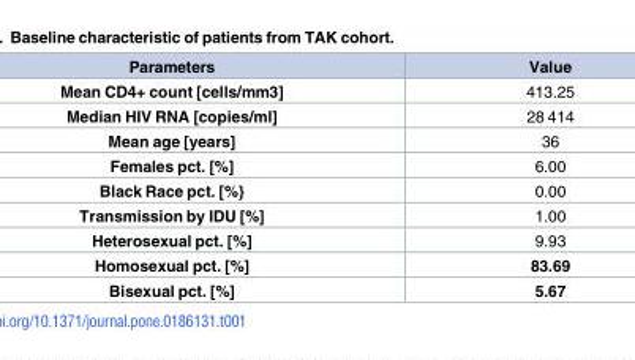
<table><thead><tr><td>Parameters</td><td>Value</td></tr></thead><tbody><tr><td>Mean CD4+ count [cells/mm3]</td><td>413.25</td></tr><tr><td>Median HIV RNA [copies/ml]</td><td>28 414</td></tr><tr><td>Mean age [years]</td><td>36</td></tr><tr><td>Females pct. [%]</td><td>6.00</td></tr><tr><td>Black Race pct. [%}</td><td>0.00</td></tr><tr><td>Transmission by IDU [%]</td><td>1.00</td></tr><tr><td>Heterosexual pct. [%]</td><td>9.93</td></tr><tr><td>Homosexual pct. [%]</td><td>83.69</td></tr><tr><td>Bisexual pct. [%]</td><td>5.67</td></tr></tbody></table>